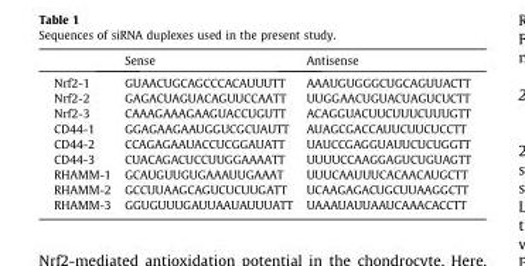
<table><thead><tr><td></td><td>Sense</td><td>Antisense</td></tr></thead><tbody><tr><td>Nrf2-1</td><td>GUAACUGCAGCCCACAUUUTT</td><td>AAAUGUGGGCUGCAGUUACTT</td></tr><tr><td>Nrf2-2</td><td>GAGACUAGUACAGUUCCAATT</td><td>UUGGAACUGUACUAGUCUCTT</td></tr><tr><td>Nrf2-3</td><td>CAAAGAAAGAAGUACCUGUTT</td><td>ACAGGUACUUCUUUCUUUGTT</td></tr><tr><td>CD44-1</td><td>GGAGAAGAAUGGUCGCUAUTT</td><td>AUAGCGACCAUUCUUCUCCTT</td></tr><tr><td>CD44-2</td><td>CCAGAGAAUACCUCGGAUATT</td><td>UAUCCGAGGUAUUCUCUGGTT</td></tr><tr><td>CD44-3</td><td>CUACAGACUCCUUGGAAAATT</td><td>UUUUCCAAGGAGUCUGUAGTT</td></tr><tr><td>RHAMM-1</td><td>GCAUGUUGUGAAAUUGAAAT</td><td>UUUCAAUUUCACAACAUGCTT</td></tr><tr><td>RHAMM-2</td><td>GCCUUAAGCAGUCUCUUGATT</td><td>UCAAGAGACUGCUUAAGGCTT</td></tr><tr><td>RHAMM-3</td><td>GGUGUUUGAUUAAUAUUUATT</td><td>UAAAUAUUAAUCAAACACCTT</td></tr></tbody></table>